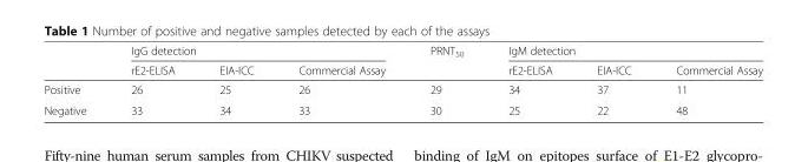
<table><thead><tr><td rowspan="2"></td><td colspan="3">IgG detection</td><td rowspan="2">PRNT<sub>50</sub></td><td colspan="3">IgM detection</td></tr><tr><td>rE2-ELISA</td><td>EIA-ICC</td><td>Commercial Assay</td><td>rE2-ELISA</td><td>EIA-ICC</td><td>Commercial Assay</td></tr></thead><tbody><tr><td>Positive</td><td>26</td><td>25</td><td>26</td><td>29</td><td>34</td><td>37</td><td>11</td></tr><tr><td>Negative</td><td>33</td><td>34</td><td>33</td><td>30</td><td>25</td><td>22</td><td>48</td></tr></tbody></table>